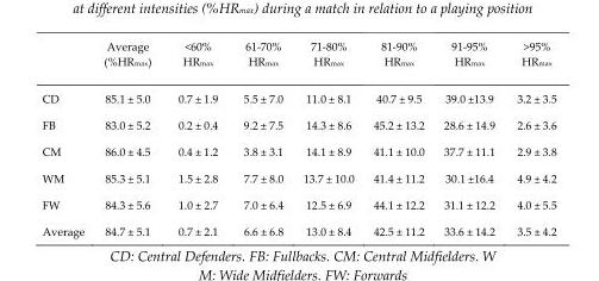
<table><thead><tr><td></td><td>Average (%HR<sub>max</sub>)</td><td>&lt;60% HR<sub>max</sub></td><td>61-70% HR<sub>max</sub></td><td>71-80% HR<sub>max</sub></td><td>81-90% HR<sub>max</sub></td><td>91-95% HR<sub>max</sub></td><td>&gt;95% HR<sub>max</sub></td></tr></thead><tbody><tr><td>CD</td><td>85.1 ± 5.0</td><td>0.7 ± 1.9</td><td>5.5 ± 7.0</td><td>11.0 ± 8.1</td><td>40.7 ± 9.5</td><td>39.0 ±13.9</td><td>3.2 ± 3.5</td></tr><tr><td>FB</td><td>83.0 ± 5.2</td><td>0.2 ± 0.4</td><td>9.2 ± 7.5</td><td>14.3 ± 8.6</td><td>45.2 ± 13.2</td><td>28.6 ± 14.9</td><td>2.6 ± 3.6</td></tr><tr><td>CM</td><td>86.0 ± 4.5</td><td>0.4 ± 1.2</td><td>3.8 ± 3.1</td><td>14.1 ± 8.9</td><td>41.1 ± 10.0</td><td>37.7 ± 11.1</td><td>2.9 ± 3.8</td></tr><tr><td>WM</td><td>85.3 ± 5.1</td><td>1.5 ± 2.8</td><td>7.7 ± 8.0</td><td>13.7 ± 10.0</td><td>41.4 ± 11.2</td><td>30.1 ±16.4</td><td>4.9 ± 4.2</td></tr><tr><td>FW</td><td>84.3 ± 5.6</td><td>1.0 ± 2.7</td><td>7.0 ± 6.4</td><td>12.5 ± 6.9</td><td>44.1 ± 12.2</td><td>31.1 ± 12.2</td><td>4.0 ± 5.5</td></tr><tr><td>Average</td><td>84.7 ± 5.1</td><td>0.7 ± 2.1</td><td>6.6 ± 6.8</td><td>13.0 ± 8.4</td><td>42.5 ± 11.2</td><td>33.6 ± 14.2</td><td>3.5 ± 4.2</td></tr></tbody></table>